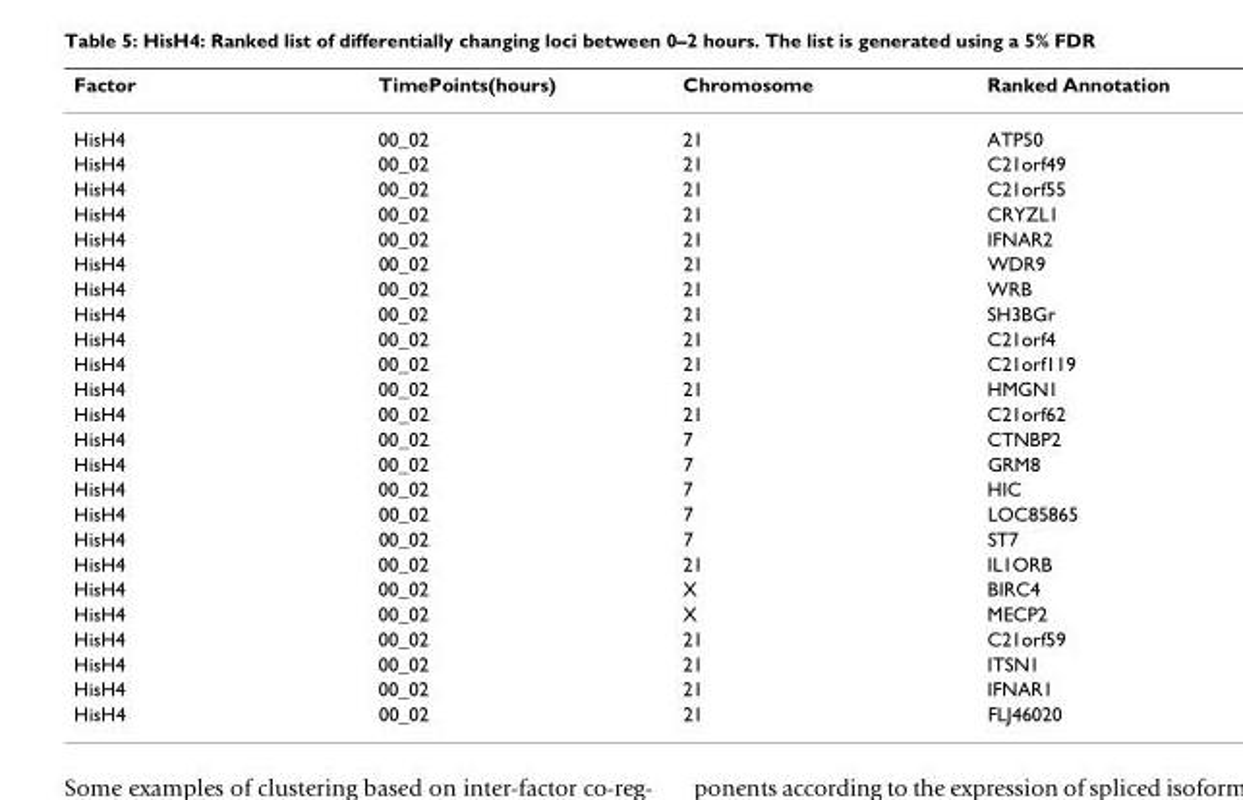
<table><thead><tr><td>Factor</td><td>TimePoints(hours)</td><td>Chromosome</td><td>Ranked Annotation</td></tr></thead><tbody><tr><td>HisH4</td><td>00_02</td><td>21</td><td>ATP50</td></tr><tr><td>HisH4</td><td>00_02</td><td>21</td><td>C21orf49</td></tr><tr><td>HisH4</td><td>00_02</td><td>21</td><td>C21orf55</td></tr><tr><td>HisH4</td><td>00_02</td><td>21</td><td>CRYZL1</td></tr><tr><td>HisH4</td><td>00_02</td><td>21</td><td>IFNAR2</td></tr><tr><td>HisH4</td><td>00_02</td><td>21</td><td>WDR9</td></tr><tr><td>HisH4</td><td>00_02</td><td>21</td><td>WRB</td></tr><tr><td>HisH4</td><td>00_02</td><td>21</td><td>SH3BGr</td></tr><tr><td>HisH4</td><td>00_02</td><td>21</td><td>C21orf4</td></tr><tr><td>HisH4</td><td>00_02</td><td>21</td><td>C21orf119</td></tr><tr><td>HisH4</td><td>00_02</td><td>21</td><td>HMGN1</td></tr><tr><td>HisH4</td><td>00_02</td><td>21</td><td>C21orf62</td></tr><tr><td>HisH4</td><td>00_02</td><td>7</td><td>CTNBP2</td></tr><tr><td>HisH4</td><td>00_02</td><td>7</td><td>GRM8</td></tr><tr><td>HisH4</td><td>00_02</td><td>7</td><td>HIC</td></tr><tr><td>HisH4</td><td>00_02</td><td>7</td><td>LOC85865</td></tr><tr><td>HisH4</td><td>00_02</td><td>7</td><td>ST7</td></tr><tr><td>HisH4</td><td>00_02</td><td>21</td><td>IL1ORB</td></tr><tr><td>HisH4</td><td>00_02</td><td>X</td><td>BIRC4</td></tr><tr><td>HisH4</td><td>00_02</td><td>X</td><td>MECP2</td></tr><tr><td>HisH4</td><td>00_02</td><td>21</td><td>C21orf59</td></tr><tr><td>HisH4</td><td>00_02</td><td>21</td><td>ITSN1</td></tr><tr><td>HisH4</td><td>00_02</td><td>21</td><td>IFNAR1</td></tr><tr><td>HisH4</td><td>00_02</td><td>21</td><td>FLJ46020</td></tr></tbody></table>